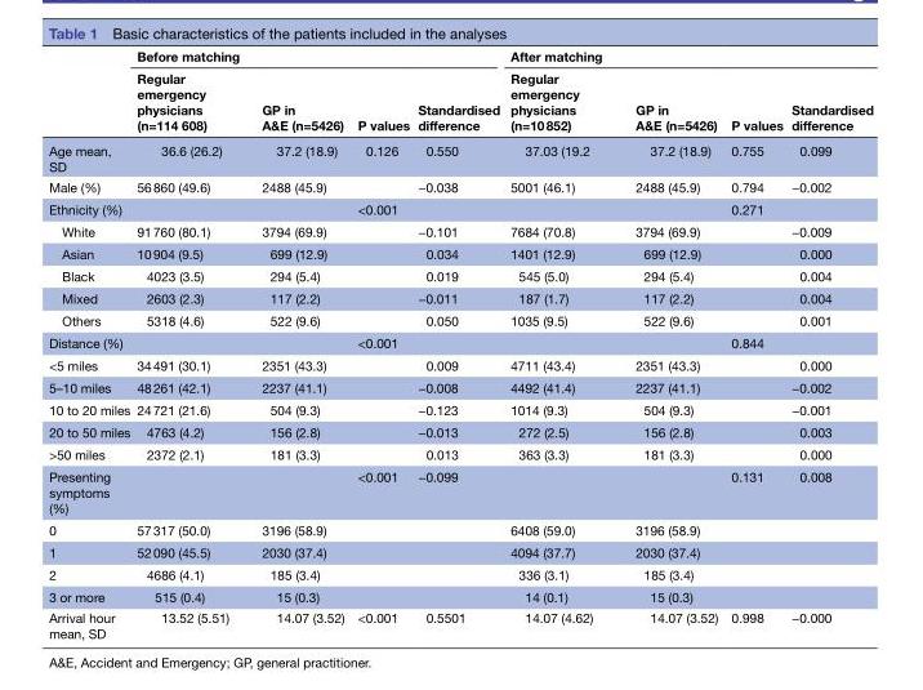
<table><thead><tr><td rowspan="2"></td><td colspan="4">Before matching</td><td colspan="4">After matching</td></tr><tr><td>Regular emergency physicians (n=114 608)</td><td>GP in A&amp;E (n=5426)</td><td>P values</td><td>Standardised difference</td><td>Regular emergency physicians (n=10 852)</td><td>GP in A&amp;E (n=5426)</td><td>P values</td><td>Standardised difference</td></tr></thead><tbody><tr><td>Age mean, SD</td><td>36.6 (26.2)</td><td>37.2 (18.9)</td><td>0.126</td><td>0.550</td><td>37.03 (19.2</td><td>37.2 (18.9)</td><td>0.755</td><td>0.099</td></tr><tr><td>Male (%)</td><td>56 860 (49.6)</td><td>2488 (45.9)</td><td></td><td>−0.038</td><td>5001 (46.1)</td><td>2488 (45.9)</td><td>0.794</td><td>−0.002</td></tr><tr><td>Ethnicity (%)</td><td></td><td></td><td>&lt;0.001</td><td></td><td></td><td></td><td>0.271</td><td></td></tr><tr><td>White</td><td>91 760 (80.1)</td><td>3794 (69.9)</td><td></td><td>−0.101</td><td>7684 (70.8)</td><td>3794 (69.9)</td><td></td><td>−0.009</td></tr><tr><td>Asian</td><td>10 904 (9.5)</td><td>699 (12.9)</td><td></td><td>0.034</td><td>1401 (12.9)</td><td>699 (12.9)</td><td></td><td>0.000</td></tr><tr><td>Black</td><td>4023 (3.5)</td><td>294 (5.4)</td><td></td><td>0.019</td><td>545 (5.0)</td><td>294 (5.4)</td><td></td><td>0.004</td></tr><tr><td>Mixed</td><td>2603 (2.3)</td><td>117 (2.2)</td><td></td><td>−0.011</td><td>187 (1.7)</td><td>117 (2.2)</td><td></td><td>0.004</td></tr><tr><td>Others</td><td>5318 (4.6)</td><td>522 (9.6)</td><td></td><td>0.050</td><td>1035 (9.5)</td><td>522 (9.6)</td><td></td><td>0.001</td></tr><tr><td>Distance (%)</td><td></td><td></td><td>&lt;0.001</td><td></td><td></td><td></td><td>0.844</td><td></td></tr><tr><td>&lt;5 miles</td><td>34 491 (30.1)</td><td>2351 (43.3)</td><td></td><td>0.009</td><td>4711 (43.4)</td><td>2351 (43.3)</td><td></td><td>0.000</td></tr><tr><td>5–10 miles</td><td>48 261 (42.1)</td><td>2237 (41.1)</td><td></td><td>−0.008</td><td>4492 (41.4)</td><td>2237 (41.1)</td><td></td><td>−0.002</td></tr><tr><td>10 to 20 miles</td><td>24 721 (21.6)</td><td>504 (9.3)</td><td></td><td>−0.123</td><td>1014 (9.3)</td><td>504 (9.3)</td><td></td><td>−0.001</td></tr><tr><td>20 to 50 miles</td><td>4763 (4.2)</td><td>156 (2.8)</td><td></td><td>−0.013</td><td>272 (2.5)</td><td>156 (2.8)</td><td></td><td>0.003</td></tr><tr><td>&gt;50 miles</td><td>2372 (2.1)</td><td>181 (3.3)</td><td></td><td>0.013</td><td>363 (3.3)</td><td>181 (3.3)</td><td></td><td>0.000</td></tr><tr><td>Presenting symptoms (%)</td><td></td><td></td><td>&lt;0.001</td><td>−0.099</td><td></td><td></td><td>0.131</td><td>0.008</td></tr><tr><td>0</td><td>57 317 (50.0)</td><td>3196 (58.9)</td><td></td><td></td><td>6408 (59.0)</td><td>3196 (58.9)</td><td></td><td></td></tr><tr><td>1</td><td>52 090 (45.5)</td><td>2030 (37.4)</td><td></td><td></td><td>4094 (37.7)</td><td>2030 (37.4)</td><td></td><td></td></tr><tr><td>2</td><td>4686 (4.1)</td><td>185 (3.4)</td><td></td><td></td><td>336 (3.1)</td><td>185 (3.4)</td><td></td><td></td></tr><tr><td>3 or more</td><td>515 (0.4)</td><td>15 (0.3)</td><td></td><td></td><td>14 (0.1)</td><td>15 (0.3)</td><td></td><td></td></tr><tr><td>Arrival hour mean, SD</td><td>13.52 (5.51)</td><td>14.07 (3.52)</td><td>&lt;0.001</td><td>0.5501</td><td>14.07 (4.62)</td><td>14.07 (3.52)</td><td>0.998</td><td>−0.000</td></tr></tbody></table>